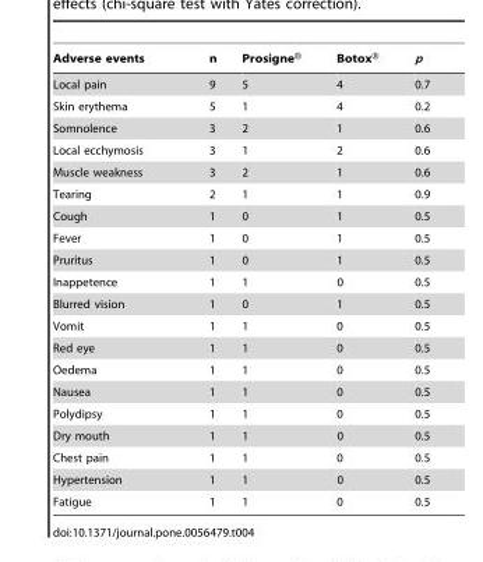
<table><thead><tr><td>Adverse events</td><td>n</td><td>Prosigne®</td><td>Botox®</td><td>p</td></tr></thead><tbody><tr><td>Local pain</td><td>9</td><td>5</td><td>4</td><td>0.7</td></tr><tr><td>Skin erythema</td><td>5</td><td>1</td><td>4</td><td>0.2</td></tr><tr><td>Somnolence</td><td>3</td><td>2</td><td>1</td><td>0.6</td></tr><tr><td>Local ecchymosis</td><td>3</td><td>1</td><td>2</td><td>0.6</td></tr><tr><td>Muscle weakness</td><td>3</td><td>2</td><td>1</td><td>0.6</td></tr><tr><td>Tearing</td><td>2</td><td>1</td><td>1</td><td>0.9</td></tr><tr><td>Cough</td><td>1</td><td>0</td><td>1</td><td>0.5</td></tr><tr><td>Fever</td><td>1</td><td>0</td><td>1</td><td>0.5</td></tr><tr><td>Pruritus</td><td>1</td><td>0</td><td>1</td><td>0.5</td></tr><tr><td>Inappetence</td><td>1</td><td>1</td><td>0</td><td>0.5</td></tr><tr><td>Blurred vision</td><td>1</td><td>0</td><td>1</td><td>0.5</td></tr><tr><td>Vomit</td><td>1</td><td>1</td><td>0</td><td>0.5</td></tr><tr><td>Red eye</td><td>1</td><td>1</td><td>0</td><td>0.5</td></tr><tr><td>Oedema</td><td>1</td><td>1</td><td>0</td><td>0.5</td></tr><tr><td>Nausea</td><td>1</td><td>1</td><td>0</td><td>0.5</td></tr><tr><td>Polydipsy</td><td>1</td><td>1</td><td>0</td><td>0.5</td></tr><tr><td>Dry mouth</td><td>1</td><td>1</td><td>0</td><td>0.5</td></tr><tr><td>Chest pain</td><td>1</td><td>1</td><td>0</td><td>0.5</td></tr><tr><td>Hypertension</td><td>1</td><td>1</td><td>0</td><td>0.5</td></tr><tr><td>Fatigue</td><td>1</td><td>1</td><td>0</td><td>0.5</td></tr></tbody></table>